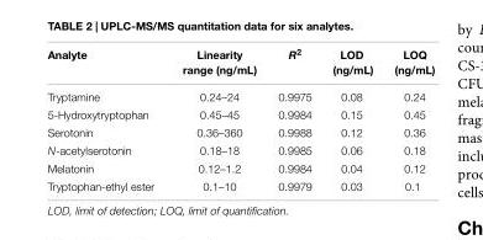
<table><thead><tr><td>Analyte</td><td>Linearity range (ng/mL)</td><td>R<sup>2</sup></td><td>LOD (ng/mL)</td><td>LOQ (ng/mL)</td></tr></thead><tbody><tr><td>Tryptamine</td><td>0.24–24</td><td>0.9975</td><td>0.08</td><td>0.24</td></tr><tr><td>5-Hydroxytryptophan</td><td>0.45–45</td><td>0.9984</td><td>0.15</td><td>0.45</td></tr><tr><td>Serotonin</td><td>0.36–360</td><td>0.9988</td><td>0.12</td><td>0.36</td></tr><tr><td>N-acetylserotonin</td><td>0.18–18</td><td>0.9985</td><td>0.06</td><td>0.18</td></tr><tr><td>Melatonin</td><td>0.12–1.2</td><td>0.9984</td><td>0.04</td><td>0.12</td></tr><tr><td>Tryptophan-ethyl ester</td><td>0.1–10</td><td>0.9979</td><td>0.03</td><td>0.1</td></tr></tbody></table>